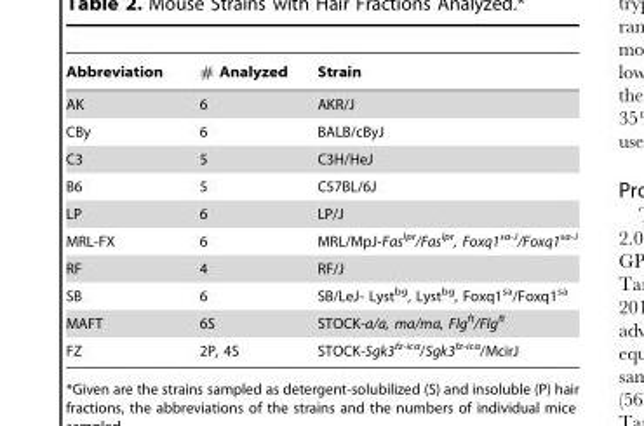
<table><thead><tr><td>Abbreviation</td><td># Analyzed</td><td>Strain</td></tr></thead><tbody><tr><td>AK</td><td>6</td><td>AKR/J</td></tr><tr><td>CBy</td><td>6</td><td>BALB/cByJ</td></tr><tr><td>C3</td><td>5</td><td>C3H/HeJ</td></tr><tr><td>B6</td><td>5</td><td>C57BL/6J</td></tr><tr><td>LP</td><td>6</td><td>LP/J</td></tr><tr><td>MRL-FX</td><td>6</td><td>MRL/MpJ-Fas<sup>lpr</sup>/Fas<sup>lpr</sup>, Foxq1<sup>sa-J</sup>/Foxq1<sup>sa-J</sup></td></tr><tr><td>RF</td><td>4</td><td>RF/J</td></tr><tr><td>SB</td><td>6</td><td>SB/LeJ- Lyst<sup>bg</sup>, Lyst<sup>bg</sup>, Foxq1<sup>sa</sup>/Foxq1<sup>sa</sup></td></tr><tr><td>MAFT</td><td>6S</td><td>STOCK-a/a, ma/ma, Flg<sup>ft</sup>/Flg<sup>ft</sup></td></tr><tr><td>FZ</td><td>2P, 4S</td><td>STOCK-Sgk3<sup>fz-ica</sup>/Sgk3<sup>fz-ica</sup>/McirJ</td></tr></tbody></table>